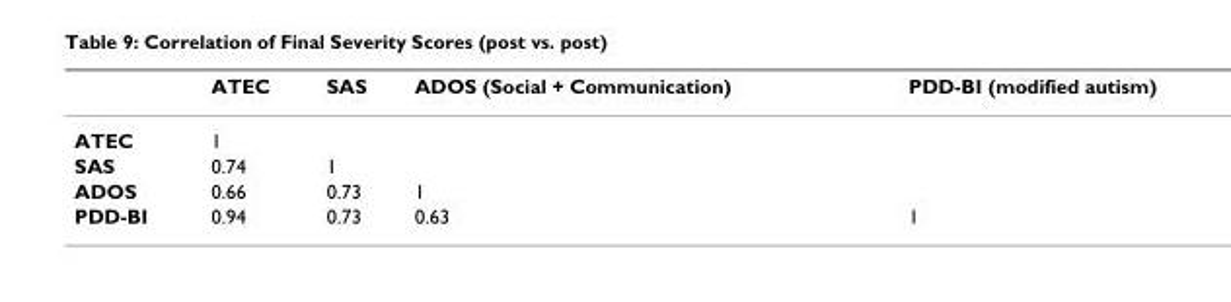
<table><thead><tr><td></td><td>ATEC</td><td>SAS</td><td>ADOS (Social + Communication)</td><td>PDD-BI (modified autism)</td></tr></thead><tbody><tr><td>ATEC</td><td>1</td><td></td><td></td><td></td></tr><tr><td>SAS</td><td>0.74</td><td>1</td><td></td><td></td></tr><tr><td>ADOS</td><td>0.66</td><td>0.73</td><td>1</td><td></td></tr><tr><td>PDD-BI</td><td>0.94</td><td>0.73</td><td>0.63</td><td>1</td></tr></tbody></table>